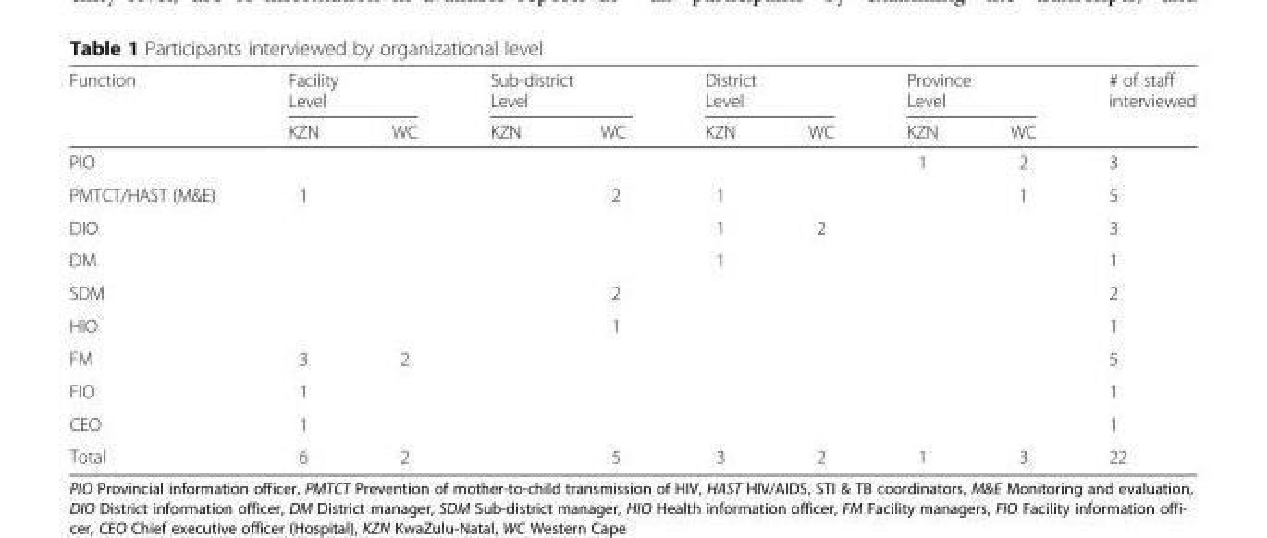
<table><thead><tr><td rowspan="2">Function</td><td colspan="2">Facility Level</td><td colspan="2">Sub-district Level</td><td colspan="2">District Level</td><td colspan="2">Province Level</td><td rowspan="2"># of staff interviewed</td></tr><tr><td>KZN</td><td>WC</td><td>KZN</td><td>WC</td><td>KZN</td><td>WC</td><td>KZN</td><td>WC</td></tr></thead><tbody><tr><td>PIO</td><td></td><td></td><td></td><td></td><td></td><td></td><td>1</td><td>2</td><td>3</td></tr><tr><td>PMTCT/HAST (M&amp;E)</td><td>1</td><td></td><td></td><td>2</td><td>1</td><td></td><td></td><td>1</td><td>5</td></tr><tr><td>DIO</td><td></td><td></td><td></td><td></td><td>1</td><td>2</td><td></td><td></td><td>3</td></tr><tr><td>DM</td><td></td><td></td><td></td><td></td><td>1</td><td></td><td></td><td></td><td>1</td></tr><tr><td>SDM</td><td></td><td></td><td></td><td>2</td><td></td><td></td><td></td><td></td><td>2</td></tr><tr><td>HIO</td><td></td><td></td><td></td><td>1</td><td></td><td></td><td></td><td></td><td>1</td></tr><tr><td>FM</td><td>3</td><td>2</td><td></td><td></td><td></td><td></td><td></td><td></td><td>5</td></tr><tr><td>FIO</td><td>1</td><td></td><td></td><td></td><td></td><td></td><td></td><td></td><td>1</td></tr><tr><td>CEO</td><td>1</td><td></td><td></td><td></td><td></td><td></td><td></td><td></td><td>1</td></tr><tr><td>Total</td><td>6</td><td>2</td><td></td><td>5</td><td>3</td><td>2</td><td>1</td><td>3</td><td>22</td></tr></tbody></table>